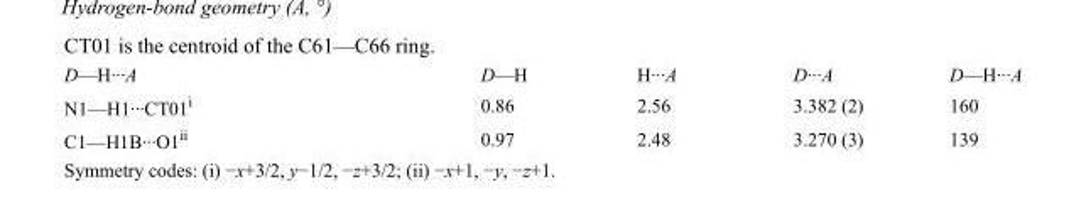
<table><tbody><tr><td>D—H···A</td><td>D—H</td><td>H···A</td><td>D···A</td><td>D—H···A</td></tr><tr><td>N1—H1···CT01<sup>i</sup></td><td>0.86</td><td>2.56</td><td>3.382 (2)</td><td>160</td></tr><tr><td>C1—H1B···O1<sup>ii</sup></td><td>0.97</td><td>2.48</td><td>3.270 (3)</td><td>139</td></tr></tbody></table>